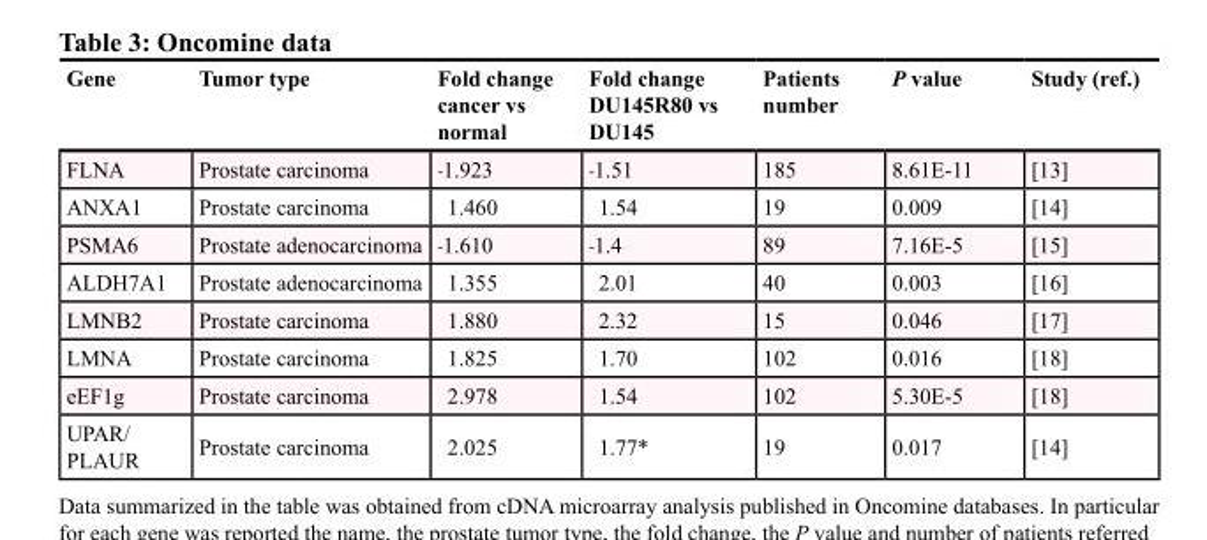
<table><thead><tr><td>Gene</td><td>Tumor type</td><td>Fold change cancer vs normal</td><td>Fold change DU145R80 vs DU145</td><td>Patients number</td><td>P value</td><td>Study (ref.)</td></tr></thead><tbody><tr><td>FLNA</td><td>Prostate carcinoma</td><td>-1.923</td><td>-1.51</td><td>185</td><td>8.61E-11</td><td>[13]</td></tr><tr><td>ANXA1</td><td>Prostate carcinoma</td><td>1.460</td><td>1.54</td><td>19</td><td>0.009</td><td>[14]</td></tr><tr><td>PSMA6</td><td>Prostate adenocarcinoma</td><td>-1.610</td><td>-1.4</td><td>89</td><td>7.16E-5</td><td>[15]</td></tr><tr><td>ALDH7A1</td><td>Prostate adenocarcinoma</td><td>1.355</td><td>2.01</td><td>40</td><td>0.003</td><td>[16]</td></tr><tr><td>LMNB2</td><td>Prostate carcinoma</td><td>1.880</td><td>2.32</td><td>15</td><td>0.046</td><td>[17]</td></tr><tr><td>LMNA</td><td>Prostate carcinoma</td><td>1.825</td><td>1.70</td><td>102</td><td>0.016</td><td>[18]</td></tr><tr><td>eEF1g</td><td>Prostate carcinoma</td><td>2.978</td><td>1.54</td><td>102</td><td>5.30E-5</td><td>[18]</td></tr><tr><td>UPAR/ PLAUR</td><td>Prostate carcinoma</td><td>2.025</td><td>1.77*</td><td>19</td><td>0.017</td><td>[14]</td></tr></tbody></table>